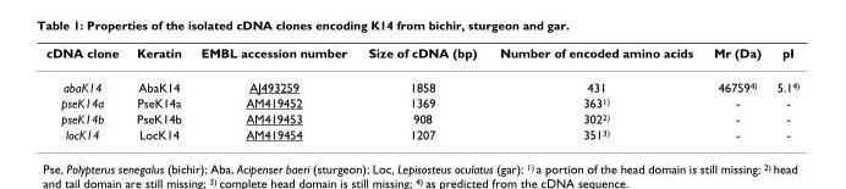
<table><thead><tr><td>cDNA clone</td><td>Keratin</td><td>EMBL accession number</td><td>Size of cDNA (bp)</td><td>Number of encoded amino acids</td><td>Mr (Da)</td><td>pI</td></tr></thead><tbody><tr><td>abaK14</td><td>AbaK14</td><td>AJ493259</td><td>1858</td><td>431</td><td>46759<sup>4)</sup></td><td>5.1<sup>4)</sup></td></tr><tr><td>pseK14a</td><td>PseK14a</td><td>AM419452</td><td>1369</td><td>363<sup>1)</sup></td><td>-</td><td>-</td></tr><tr><td>pseK14b</td><td>PseK14b</td><td>AM419453</td><td>908</td><td>302<sup>2)</sup></td><td>-</td><td>-</td></tr><tr><td>locK14</td><td>LocK14</td><td>AM419454</td><td>1207</td><td>351<sup>3)</sup></td><td>-</td><td>-</td></tr></tbody></table>